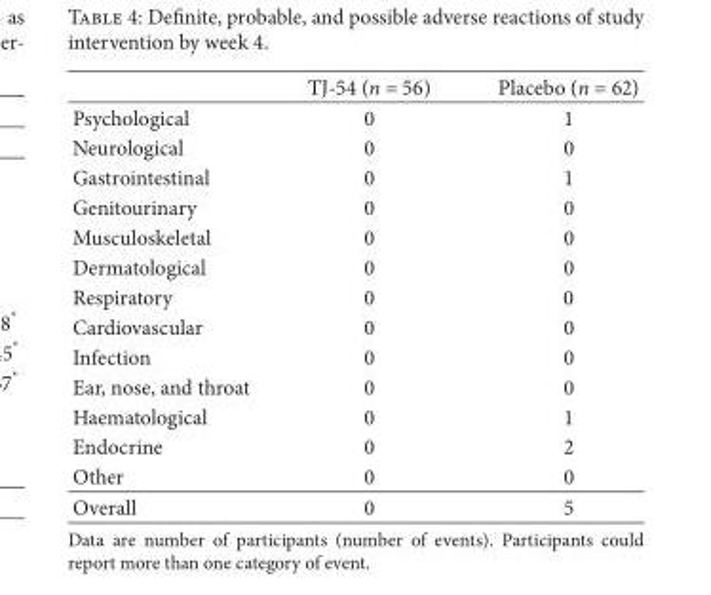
<table><thead><tr><td></td><td>TJ-54 (n = 56)</td><td>Placebo (n = 62)</td></tr></thead><tbody><tr><td>Psychological</td><td>0</td><td>1</td></tr><tr><td>Neurological</td><td>0</td><td>0</td></tr><tr><td>Gastrointestinal</td><td>0</td><td>1</td></tr><tr><td>Genitourinary</td><td>0</td><td>0</td></tr><tr><td>Musculoskeletal</td><td>0</td><td>0</td></tr><tr><td>Dermatological</td><td>0</td><td>0</td></tr><tr><td>Respiratory</td><td>0</td><td>0</td></tr><tr><td>Cardiovascular</td><td>0</td><td>0</td></tr><tr><td>Infection</td><td>0</td><td>0</td></tr><tr><td>Ear, nose, and throat</td><td>0</td><td>0</td></tr><tr><td>Haematological</td><td>0</td><td>1</td></tr><tr><td>Endocrine</td><td>0</td><td>2</td></tr><tr><td>Other</td><td>0</td><td>0</td></tr><tr><td>Overall</td><td>0</td><td>5</td></tr></tbody></table>